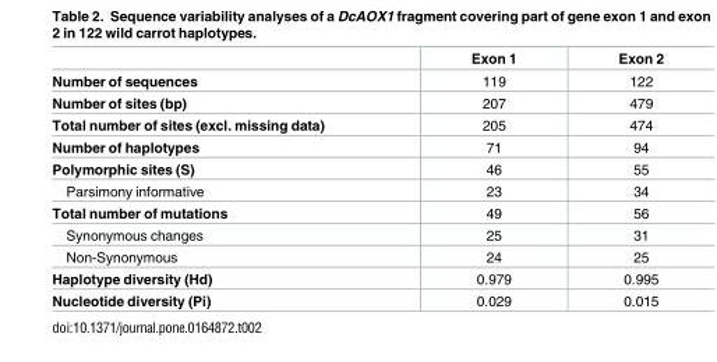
<table><thead><tr><td></td><td>Exon 1</td><td>Exon 2</td></tr></thead><tbody><tr><td>Number of sequences</td><td>119</td><td>122</td></tr><tr><td>Number of sites (bp)</td><td>207</td><td>479</td></tr><tr><td>Total number of sites (excl. missing data)</td><td>205</td><td>474</td></tr><tr><td>Number of haplotypes</td><td>71</td><td>94</td></tr><tr><td>Polymorphic sites (S)</td><td>46</td><td>55</td></tr><tr><td>Parsimony informative</td><td>23</td><td>34</td></tr><tr><td>Total number of mutations</td><td>49</td><td>56</td></tr><tr><td>Synonymous changes</td><td>25</td><td>31</td></tr><tr><td>Non-Synonymous</td><td>24</td><td>25</td></tr><tr><td>Haplotype diversity (Hd)</td><td>0.979</td><td>0.995</td></tr><tr><td>Nucleotide diversity (Pi)</td><td>0.029</td><td>0.015</td></tr></tbody></table>